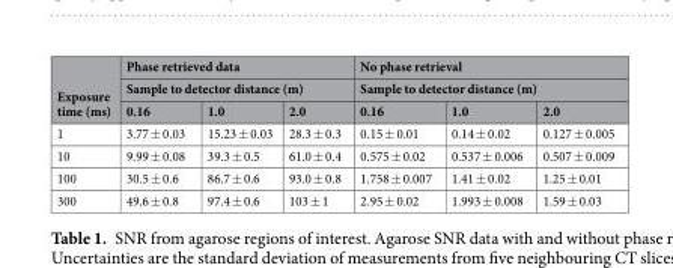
<table><thead><tr><td rowspan="3">Exposure time (ms)</td><td rowspan="2" colspan="3">Phase retrieved data Sample to detector distance (m)</td><td rowspan="2" colspan="3">No phase retrieval Sample to detector distance (m)</td></tr><tr></tr><tr><td>0.16</td><td>1.0</td><td>2.0</td><td>0.16</td><td>1.0</td><td>2.0</td></tr></thead><tbody><tr><td>1</td><td>3.77 ± 0.03</td><td>15.23 ± 0.03</td><td>28.3 ± 0.3</td><td>0.15 ± 0.01</td><td>0.14 ± 0.02</td><td>0.127 ± 0.005</td></tr><tr><td>10</td><td>9.99 ± 0.08</td><td>39.3 ± 0.5</td><td>61.0 ± 0.4</td><td>0.575 ± 0.02</td><td>0.537 ± 0.006</td><td>0.507 ± 0.009</td></tr><tr><td>100</td><td>30.5 ± 0.6</td><td>86.7 ± 0.6</td><td>93.0 ± 0.8</td><td>1.758 ± 0.007</td><td>1.41 ± 0.02</td><td>1.25 ± 0.01</td></tr><tr><td>300</td><td>49.6 ± 0.8</td><td>97.4 ± 0.6</td><td>103 ± 1</td><td>2.95 ± 0.02</td><td>1.993 ± 0.008</td><td>1.59 ± 0.03</td></tr></tbody></table>